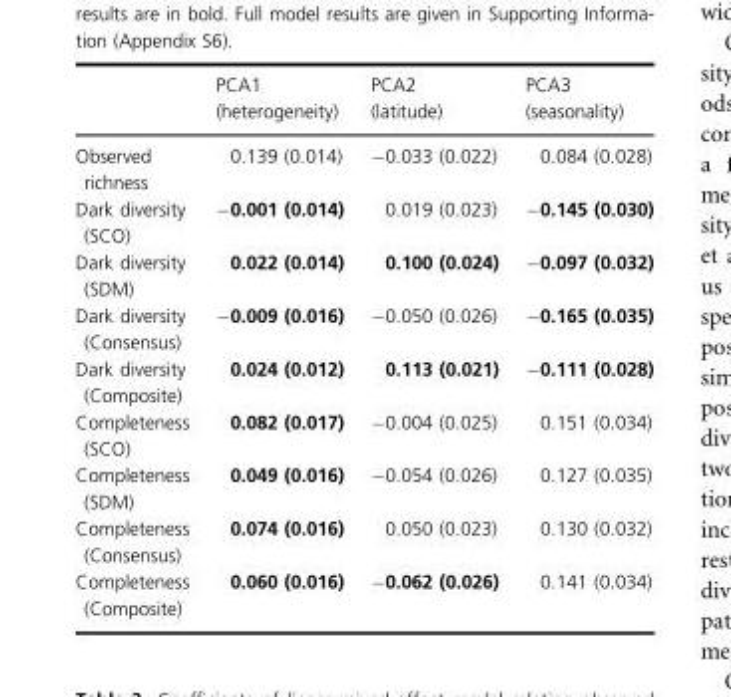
<table><thead><tr><td></td><td>PCA1 (heterogeneity)</td><td>PCA2 (latitude)</td><td>PCA3 (seasonality)</td></tr></thead><tbody><tr><td>Observed richness</td><td>0.139 (0.014)</td><td>−0.033 (0.022)</td><td>0.084 (0.028)</td></tr><tr><td>Dark diversity (SCO)</td><td>−0.001 (0.014)</td><td>0.019 (0.023)</td><td>−0.145 (0.030)</td></tr><tr><td>Dark diversity (SDM)</td><td>0.022 (0.014)</td><td>0.100 (0.024)</td><td>−0.097 (0.032)</td></tr><tr><td>Dark diversity (Consensus)</td><td>−0.009 (0.016)</td><td>−0.050 (0.026)</td><td>−0.165 (0.035)</td></tr><tr><td>Dark diversity (Composite)</td><td>0.024 (0.012)</td><td>0.113 (0.021)</td><td>−0.111 (0.028)</td></tr><tr><td>Completeness (SCO)</td><td>0.082 (0.017)</td><td>−0.004 (0.025)</td><td>0.151 (0.034)</td></tr><tr><td>Completeness (SDM)</td><td>0.049 (0.016)</td><td>−0.054 (0.026)</td><td>0.127 (0.035)</td></tr><tr><td>Completeness (Consensus)</td><td>0.074 (0.016)</td><td>0.050 (0.023)</td><td>0.130 (0.032)</td></tr><tr><td>Completeness (Composite)</td><td>0.060 (0.016)</td><td>−0.062 (0.026)</td><td>0.141 (0.034)</td></tr></tbody></table>